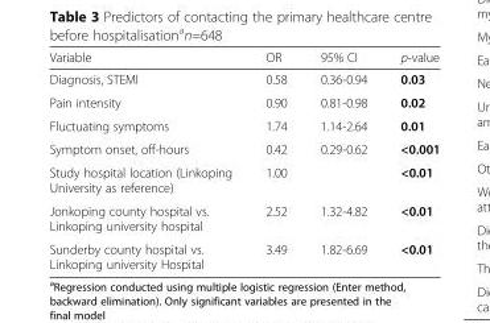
<table><thead><tr><td>Variable</td><td>OR</td><td>95% CI</td><td>p-value</td></tr></thead><tbody><tr><td>Diagnosis, STEMI</td><td>0.58</td><td>0.36-0.94</td><td>0.03</td></tr><tr><td>Pain intensity</td><td>0.90</td><td>0.81-0.98</td><td>0.02</td></tr><tr><td>Fluctuating symptoms</td><td>1.74</td><td>1.14-2.64</td><td>0.01</td></tr><tr><td>Symptom onset, off-hours</td><td>0.42</td><td>0.29-0.62</td><td>&lt;0.001</td></tr><tr><td>Study hospital location (Linkoping University as reference)</td><td>1.00</td><td></td><td>&lt;0.01</td></tr><tr><td>Jonkoping county hospital vs. Linkoping university hospital</td><td>2.52</td><td>1.32-4.82</td><td>&lt;0.01</td></tr><tr><td>Sunderby county hospital vs. Linkoping university Hospital</td><td>3.49</td><td>1.82-6.69</td><td>&lt;0.01</td></tr></tbody></table>